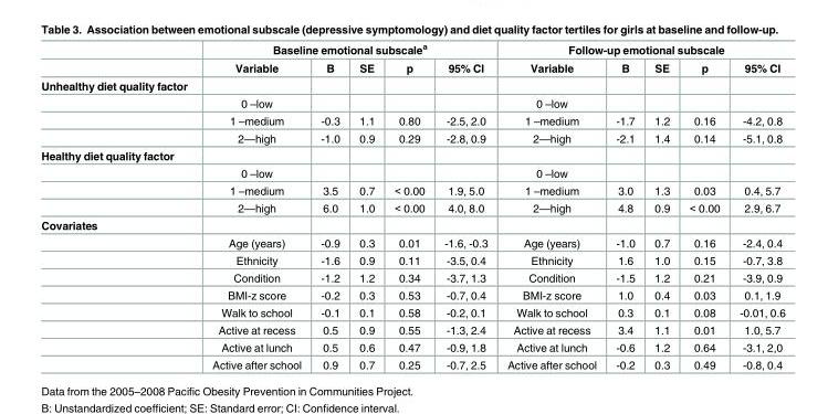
<table><thead><tr><td rowspan="2"></td><td colspan="5">Baseline emotional subscale<sup>a</sup></td><td colspan="5">Follow-up emotional subscale</td></tr><tr><td>Variable</td><td>B</td><td>SE</td><td>p</td><td>95% CI</td><td>Variable</td><td>B</td><td>SE</td><td>p</td><td>95% CI</td></tr></thead><tbody><tr><td colspan="11">Unhealthy diet quality factor</td></tr><tr><td></td><td>0 –low</td><td></td><td></td><td></td><td></td><td>0 –low</td><td></td><td></td><td></td><td></td></tr><tr><td></td><td>1 –medium</td><td>-0.3</td><td>1.1</td><td>0.80</td><td>-2.5, 2.0</td><td>1 –medium</td><td>-1.7</td><td>1.2</td><td>0.16</td><td>-4.2, 0.8</td></tr><tr><td></td><td>2—high</td><td>-1.0</td><td>0.9</td><td>0.29</td><td>-2.8, 0.9</td><td>2—high</td><td>-2.1</td><td>1.4</td><td>0.14</td><td>-5.1, 0.8</td></tr><tr><td colspan="11">Healthy diet quality factor</td></tr><tr><td></td><td>0 –low</td><td></td><td></td><td></td><td></td><td>0 –low</td><td></td><td></td><td></td><td></td></tr><tr><td></td><td>1 –medium</td><td>3.5</td><td>0.7</td><td>&lt; 0.00</td><td>1.9, 5.0</td><td>1 –medium</td><td>3.0</td><td>1.3</td><td>0.03</td><td>0.4, 5.7</td></tr><tr><td></td><td>2—high</td><td>6.0</td><td>1.0</td><td>&lt; 0.00</td><td>4.0, 8.0</td><td>2—high</td><td>4.8</td><td>0.9</td><td>&lt; 0.00</td><td>2.9, 6.7</td></tr><tr><td colspan="11">Covariates</td></tr><tr><td></td><td>Age (years)</td><td>-0.9</td><td>0.3</td><td>0.01</td><td>-1.6, -0.3</td><td>Age (years)</td><td>-1.0</td><td>0.7</td><td>0.16</td><td>-2.4, 0.4</td></tr><tr><td></td><td>Ethnicity</td><td>-1.6</td><td>0.9</td><td>0.11</td><td>-3.5, 0.4</td><td>Ethnicity</td><td>1.6</td><td>1.0</td><td>0.15</td><td>-0.7, 3.8</td></tr><tr><td></td><td>Condition</td><td>-1.2</td><td>1.2</td><td>0.34</td><td>-3.7, 1.3</td><td>Condition</td><td>-1.5</td><td>1.2</td><td>0.21</td><td>-3.9, 0.9</td></tr><tr><td></td><td>BMI-z score</td><td>-0.2</td><td>0.3</td><td>0.53</td><td>-0.7, 0.4</td><td>BMI-z score</td><td>1.0</td><td>0.4</td><td>0.03</td><td>0.1, 1.9</td></tr><tr><td></td><td>Walk to school</td><td>-0.1</td><td>0.1</td><td>0.58</td><td>-0.2, 0.1</td><td>Walk to school</td><td>0.3</td><td>0.1</td><td>0.08</td><td>-0.01, 0.6</td></tr><tr><td></td><td>Active at recess</td><td>0.5</td><td>0.9</td><td>0.55</td><td>-1.3, 2.4</td><td>Active at recess</td><td>3.4</td><td>1.1</td><td>0.01</td><td>1.0, 5.7</td></tr><tr><td></td><td>Active at lunch</td><td>0.5</td><td>0.6</td><td>0.47</td><td>-0.9, 1.8</td><td>Active at lunch</td><td>-0.6</td><td>1.2</td><td>0.64</td><td>-3.1, 2,0</td></tr><tr><td></td><td>Active after school</td><td>0.9</td><td>0.7</td><td>0.25</td><td>-0.7, 2.5</td><td>Active after school</td><td>-0.2</td><td>0.3</td><td>0.49</td><td>-0.8, 0.4</td></tr></tbody></table>